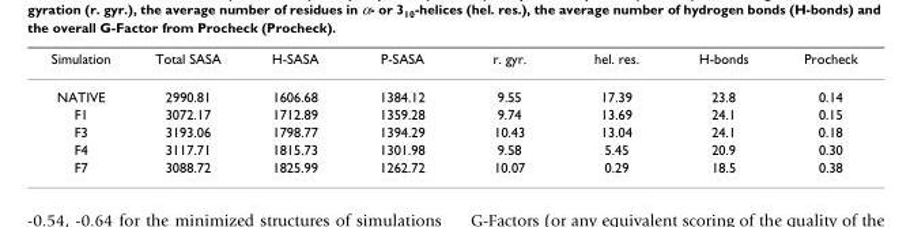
<table><thead><tr><td>Simulation</td><td>Total SASA</td><td>H-SASA</td><td>P-SASA</td><td>r. gyr.</td><td>hel. res.</td><td>H-bonds</td><td>Procheck</td></tr></thead><tbody><tr><td>NATIVE</td><td>2990.81</td><td>1606.68</td><td>1384.12</td><td>9.55</td><td>17.39</td><td>23.8</td><td>0.14</td></tr><tr><td>F1</td><td>3072.17</td><td>1712.89</td><td>1359.28</td><td>9.74</td><td>13.69</td><td>24.1</td><td>0.15</td></tr><tr><td>F3</td><td>3193.06</td><td>1798.77</td><td>1394.29</td><td>10.43</td><td>13.04</td><td>24.1</td><td>0.18</td></tr><tr><td>F4</td><td>3117.71</td><td>1815.73</td><td>1301.98</td><td>9.58</td><td>5.45</td><td>20.9</td><td>0.30</td></tr><tr><td>F7</td><td>3088.72</td><td>1825.99</td><td>1262.72</td><td>10.07</td><td>0.29</td><td>18.5</td><td>0.38</td></tr></tbody></table>